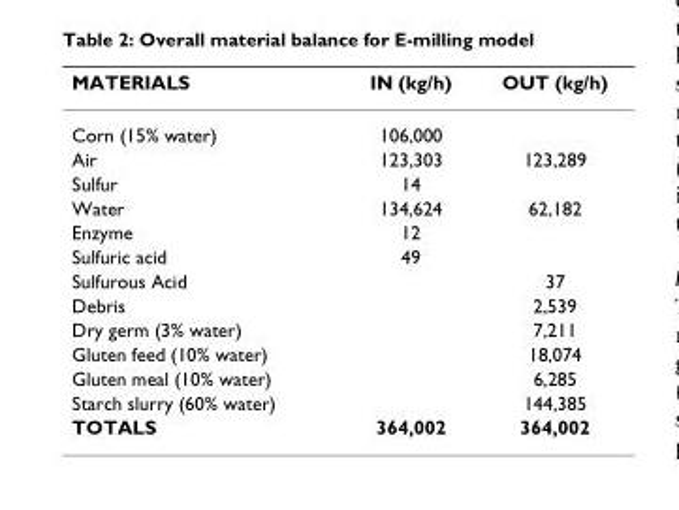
<table><thead><tr><td>MATERIALS</td><td>IN (kg/h)</td><td>OUT (kg/h)</td></tr></thead><tbody><tr><td>Corn (15% water)</td><td>106,000</td><td></td></tr><tr><td>Air</td><td>123,303</td><td>123,289</td></tr><tr><td>Sulfur</td><td>14</td><td></td></tr><tr><td>Water</td><td>134,624</td><td>62,182</td></tr><tr><td>Enzyme</td><td>12</td><td></td></tr><tr><td>Sulfuric acid</td><td>49</td><td></td></tr><tr><td>Sulfurous Acid</td><td></td><td>37</td></tr><tr><td>Debris</td><td></td><td>2,539</td></tr><tr><td>Dry germ (3% water)</td><td></td><td>7,211</td></tr><tr><td>Gluten feed (10% water)</td><td></td><td>18,074</td></tr><tr><td>Gluten meal (10% water)</td><td></td><td>6,285</td></tr><tr><td>Starch slurry (60% water)</td><td></td><td>144,385</td></tr><tr><td>TOTALS</td><td>364,002</td><td>364,002</td></tr></tbody></table>